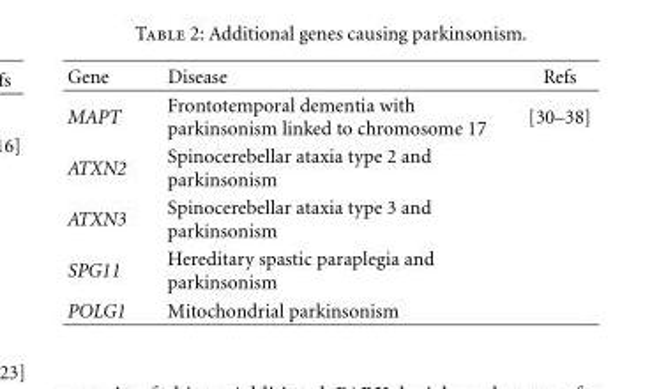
<table><thead><tr><td>Gene</td><td>Disease</td><td>Refs</td></tr></thead><tbody><tr><td>MAPT</td><td>Frontotemporal dementia with parkinsonism linked to chromosome 17</td><td>[30–38]</td></tr><tr><td>ATXN2</td><td>Spinocerebellar ataxia type 2 and parkinsonism</td><td></td></tr><tr><td>ATXN3</td><td>Spinocerebellar ataxia type 3 and parkinsonism</td><td></td></tr><tr><td>SPG11</td><td>Hereditary spastic paraplegia and parkinsonism</td><td></td></tr><tr><td>POLG1</td><td>Mitochondrial parkinsonism</td><td></td></tr></tbody></table>